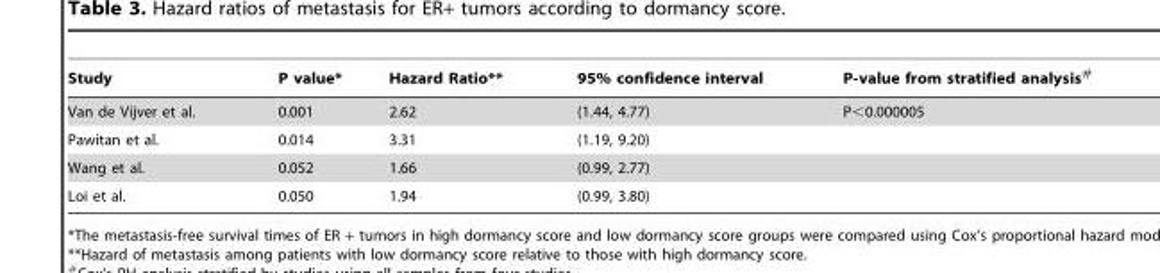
<table><thead><tr><td>Study</td><td>P value*</td><td>Hazard Ratio**</td><td>95% confidence interval</td><td>P-value from stratified analysis#</td></tr></thead><tbody><tr><td>Van de Vijver et al.</td><td>0.001</td><td>2.62</td><td>(1.44, 4.77)</td><td>P&lt;0.000005</td></tr><tr><td>Pawitan et al.</td><td>0.014</td><td>3.31</td><td>(1.19, 9.20)</td><td></td></tr><tr><td>Wang et al.</td><td>0.052</td><td>1.66</td><td>(0.99, 2.77)</td><td></td></tr><tr><td>Loi et al.</td><td>0.050</td><td>1.94</td><td>(0.99, 3.80)</td><td></td></tr></tbody></table>